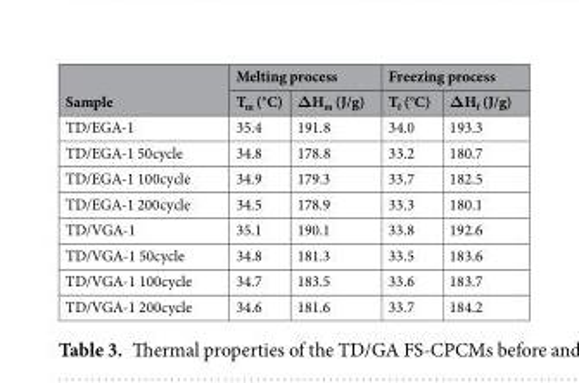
<table><thead><tr><td rowspan="2">Sample</td><td colspan="2">Melting process</td><td colspan="2">Freezing process</td></tr><tr><td>T<sub>m</sub> (°C)</td><td>ΔH<sub>m</sub> (J/g)</td><td>T<sub>f</sub> (°C)</td><td>ΔH<sub>f</sub> (J/g)</td></tr></thead><tbody><tr><td>TD/EGA-1</td><td>35.4</td><td>191.8</td><td>34.0</td><td>193.3</td></tr><tr><td>TD/EGA-1 50cycle</td><td>34.8</td><td>178.8</td><td>33.2</td><td>180.7</td></tr><tr><td>TD/EGA-1 100cycle</td><td>34.9</td><td>179.3</td><td>33.7</td><td>182.5</td></tr><tr><td>TD/EGA-1 200cycle</td><td>34.5</td><td>178.9</td><td>33.3</td><td>180.1</td></tr><tr><td>TD/VGA-1</td><td>35.1</td><td>190.1</td><td>33.8</td><td>192.6</td></tr><tr><td>TD/VGA-1 50cycle</td><td>34.8</td><td>181.3</td><td>33.5</td><td>183.6</td></tr><tr><td>TD/VGA-1 100cycle</td><td>34.7</td><td>183.5</td><td>33.6</td><td>183.7</td></tr><tr><td>TD/VGA-1 200cycle</td><td>34.6</td><td>181.6</td><td>33.7</td><td>184.2</td></tr></tbody></table>